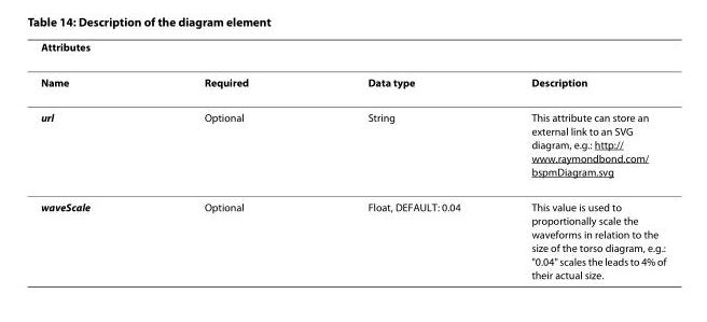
<table><thead><tr><td>Attributes</td><td></td><td></td><td></td></tr></thead><tbody><tr><td>Name</td><td>Required</td><td>Data type</td><td>Description</td></tr><tr><td>url</td><td>Optional</td><td>String</td><td>This attribute can store an external link to an SVG diagram, e.g.: http:// www.raymondbond.com/ bspmDiagram.svg</td></tr><tr><td>waveScale</td><td>Optional</td><td>Float, DEFAULT: 0.04</td><td>This value is used to proportionally scale the waveforms in relation to the size of the torso diagram, e.g.: &quot;0.04&quot; scales the leads to 4% of their actual size.</td></tr></tbody></table>